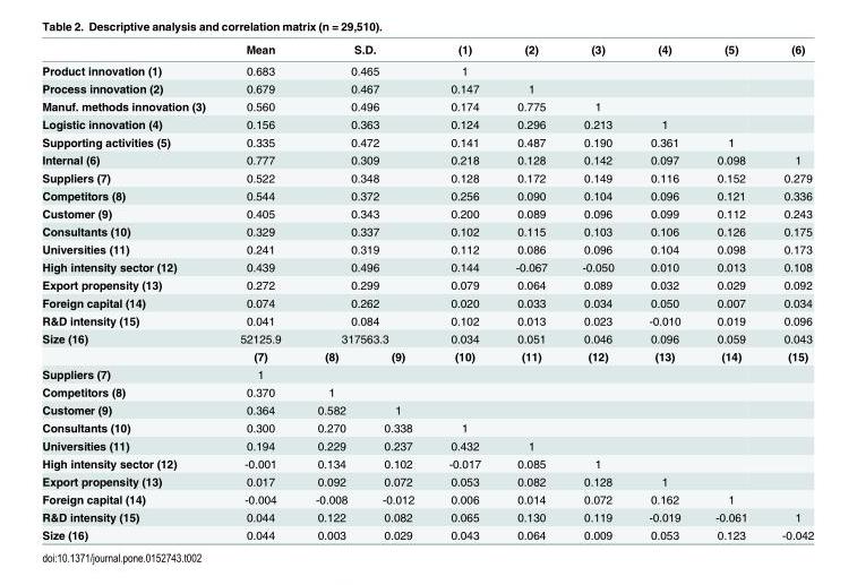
<table><thead><tr><td></td><td>Mean</td><td colspan="2">S.D.</td><td>(1)</td><td>(2)</td><td>(3)</td><td>(4)</td><td>(5)</td><td>(6)</td></tr></thead><tbody><tr><td>Product innovation (1)</td><td>0.683</td><td colspan="2">0.465</td><td>1</td><td></td><td></td><td></td><td></td><td></td></tr><tr><td>Process innovation (2)</td><td>0.679</td><td colspan="2">0.467</td><td>0.147</td><td>1</td><td></td><td></td><td></td><td></td></tr><tr><td>Manuf. methods innovation (3)</td><td>0.560</td><td colspan="2">0.496</td><td>0.174</td><td>0.775</td><td>1</td><td></td><td></td><td></td></tr><tr><td>Logistic innovation (4)</td><td>0.156</td><td colspan="2">0.363</td><td>0.124</td><td>0.296</td><td>0.213</td><td>1</td><td></td><td></td></tr><tr><td>Supporting activities (5)</td><td>0.335</td><td colspan="2">0.472</td><td>0.141</td><td>0.487</td><td>0.190</td><td>0.361</td><td>1</td><td></td></tr><tr><td>Internal (6)</td><td>0.777</td><td colspan="2">0.309</td><td>0.218</td><td>0.128</td><td>0.142</td><td>0.097</td><td>0.098</td><td>1</td></tr><tr><td>Suppliers (7)</td><td>0.522</td><td colspan="2">0.348</td><td>0.128</td><td>0.172</td><td>0.149</td><td>0.116</td><td>0.152</td><td>0.279</td></tr><tr><td>Competitors (8)</td><td>0.544</td><td colspan="2">0.372</td><td>0.256</td><td>0.090</td><td>0.104</td><td>0.096</td><td>0.121</td><td>0.336</td></tr><tr><td>Customer (9)</td><td>0.405</td><td colspan="2">0.343</td><td>0.200</td><td>0.089</td><td>0.096</td><td>0.099</td><td>0.112</td><td>0.243</td></tr><tr><td>Consultants (10)</td><td>0.329</td><td colspan="2">0.337</td><td>0.102</td><td>0.115</td><td>0.103</td><td>0.106</td><td>0.126</td><td>0.175</td></tr><tr><td>Universities (11)</td><td>0.241</td><td colspan="2">0.319</td><td>0.112</td><td>0.086</td><td>0.096</td><td>0.104</td><td>0.098</td><td>0.173</td></tr><tr><td>High intensity sector (12)</td><td>0.439</td><td colspan="2">0.496</td><td>0.144</td><td>-0.067</td><td>-0.050</td><td>0.010</td><td>0.013</td><td>0.108</td></tr><tr><td>Export propensity (13)</td><td>0.272</td><td colspan="2">0.299</td><td>0.079</td><td>0.064</td><td>0.089</td><td>0.032</td><td>0.029</td><td>0.092</td></tr><tr><td>Foreign capital (14)</td><td>0.074</td><td colspan="2">0.262</td><td>0.020</td><td>0.033</td><td>0.034</td><td>0.050</td><td>0.007</td><td>0.034</td></tr><tr><td>R&amp;D intensity (15)</td><td>0.041</td><td colspan="2">0.084</td><td>0.102</td><td>0.013</td><td>0.023</td><td>-0.010</td><td>0.019</td><td>0.096</td></tr><tr><td rowspan="2">Size (16)</td><td>52125.9</td><td colspan="2">317563.3</td><td>0.034</td><td>0.051</td><td>0.046</td><td>0.096</td><td>0.059</td><td>0.043</td></tr><tr><td>(7)</td><td>(8)</td><td>(9)</td><td>(10)</td><td>(11)</td><td>(12)</td><td>(13)</td><td>(14)</td><td>(15)</td></tr><tr><td>Suppliers (7)</td><td>1</td><td></td><td></td><td></td><td></td><td></td><td></td><td></td><td></td></tr><tr><td>Competitors (8)</td><td>0.370</td><td>1</td><td></td><td></td><td></td><td></td><td></td><td></td><td></td></tr><tr><td>Customer (9)</td><td>0.364</td><td>0.582</td><td>1</td><td></td><td></td><td></td><td></td><td></td><td></td></tr><tr><td>Consultants (10)</td><td>0.300</td><td>0.270</td><td>0.338</td><td>1</td><td></td><td></td><td></td><td></td><td></td></tr><tr><td>Universities (11)</td><td>0.194</td><td>0.229</td><td>0.237</td><td>0.432</td><td>1</td><td></td><td></td><td></td><td></td></tr><tr><td>High intensity sector (12)</td><td>-0.001</td><td>0.134</td><td>0.102</td><td>-0.017</td><td>0.085</td><td>1</td><td></td><td></td><td></td></tr><tr><td>Export propensity (13)</td><td>0.017</td><td>0.092</td><td>0.072</td><td>0.053</td><td>0.082</td><td>0.128</td><td>1</td><td></td><td></td></tr><tr><td>Foreign capital (14)</td><td>-0.004</td><td>-0.008</td><td>-0.012</td><td>0.006</td><td>0.014</td><td>0.072</td><td>0.162</td><td>1</td><td></td></tr><tr><td>R&amp;D intensity (15)</td><td>0.044</td><td>0.122</td><td>0.082</td><td>0.065</td><td>0.130</td><td>0.119</td><td>-0.019</td><td>-0.061</td><td>1</td></tr><tr><td>Size (16)</td><td>0.044</td><td>0.003</td><td>0.029</td><td>0.043</td><td>0.064</td><td>0.009</td><td>0.053</td><td>0.123</td><td>-0.042</td></tr></tbody></table>